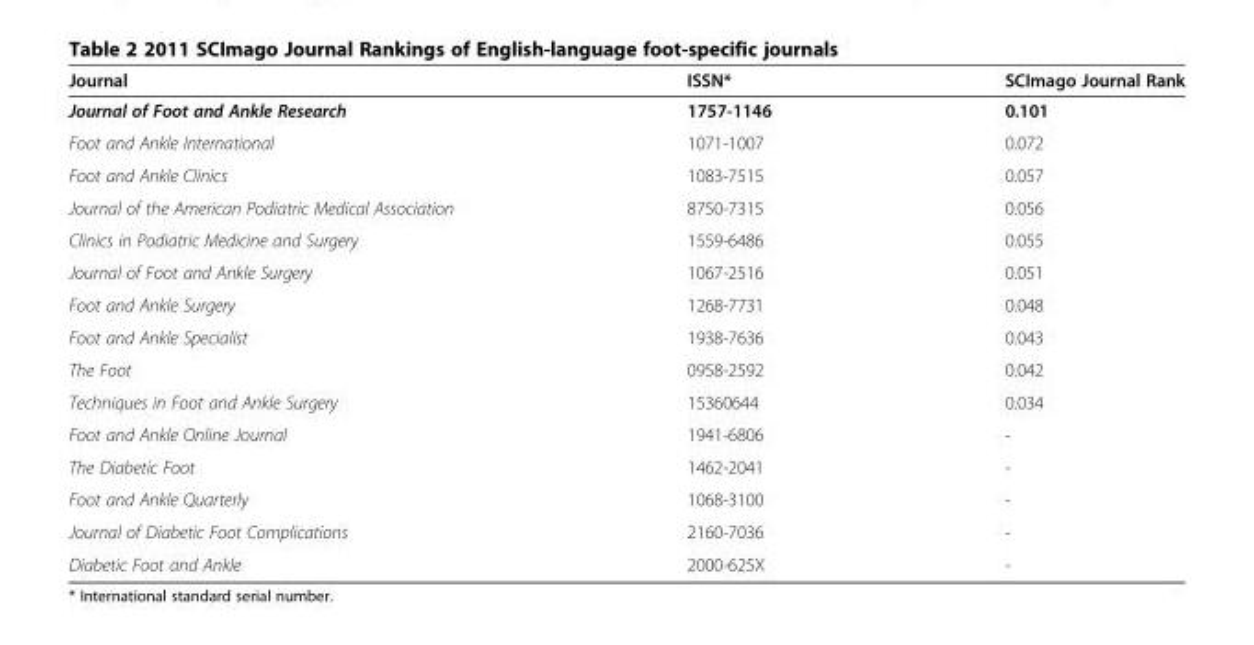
<table><thead><tr><td>Journal</td><td>ISSN*</td><td>SCImago Journal Rank</td></tr></thead><tbody><tr><td>Journal of Foot and Ankle Research</td><td>1757-1146</td><td>0.101</td></tr><tr><td>Foot and Ankle International</td><td>1071-1007</td><td>0.072</td></tr><tr><td>Foot and Ankle Clinics</td><td>1083-7515</td><td>0.057</td></tr><tr><td>Journal of the American Podiatric Medical Association</td><td>8750-7315</td><td>0.056</td></tr><tr><td>Clinics in Podiatric Medicine and Surgery</td><td>1559-6486</td><td>0.055</td></tr><tr><td>Journal of Foot and Ankle Surgery</td><td>1067-2516</td><td>0.051</td></tr><tr><td>Foot and Ankle Surgery</td><td>1268-7731</td><td>0.048</td></tr><tr><td>Foot and Ankle Specialist</td><td>1938-7636</td><td>0.043</td></tr><tr><td>The Foot</td><td>0958-2592</td><td>0.042</td></tr><tr><td>Techniques in Foot and Ankle Surgery</td><td>15360644</td><td>0.034</td></tr><tr><td>Foot and Ankle Online Journal</td><td>1941-6806</td><td>-</td></tr><tr><td>The Diabetic Foot</td><td>1462-2041</td><td>-</td></tr><tr><td>Foot and Ankle Quarterly</td><td>1068-3100</td><td>-</td></tr><tr><td>Journal of Diabetic Foot Complications</td><td>2160-7036</td><td>-</td></tr><tr><td>Diabetic Foot and Ankle</td><td>2000-625X</td><td>-</td></tr></tbody></table>